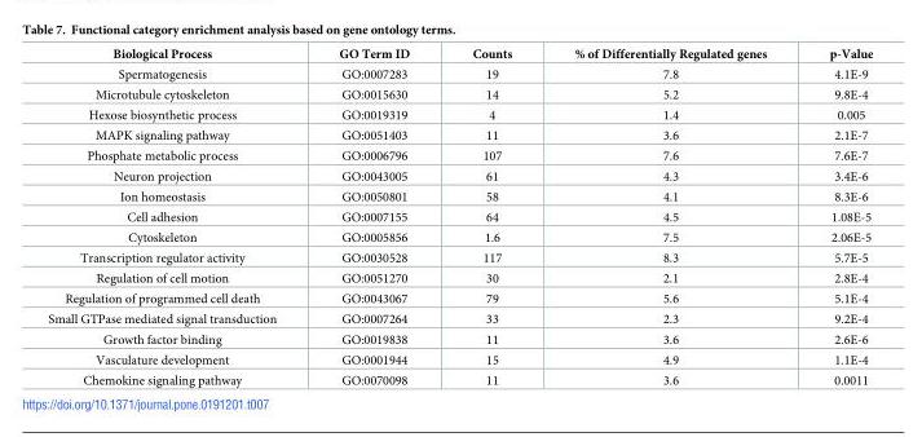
<table><thead><tr><td>Biological Process</td><td>GO Term ID</td><td>Counts</td><td>% of Differentially Regulated genes</td><td>p-Value</td></tr></thead><tbody><tr><td>Spermatogenesis</td><td>GO:0007283</td><td>19</td><td>7.8</td><td>4.1E-9</td></tr><tr><td>Microtubule cytoskeleton</td><td>GO:0015630</td><td>14</td><td>5.2</td><td>9.8E-4</td></tr><tr><td>Hexose biosynthetic process</td><td>GO:0019319</td><td>4</td><td>1.4</td><td>0.005</td></tr><tr><td>MAPK signaling pathway</td><td>GO:0051403</td><td>11</td><td>3.6</td><td>2.1E-7</td></tr><tr><td>Phosphate metabolic process</td><td>GO:0006796</td><td>107</td><td>7.6</td><td>7.6E-7</td></tr><tr><td>Neuron projection</td><td>GO:0043005</td><td>61</td><td>4.3</td><td>3.4E-6</td></tr><tr><td>Ion homeostasis</td><td>GO:0050801</td><td>58</td><td>4.1</td><td>8.3E-6</td></tr><tr><td>Cell adhesion</td><td>GO:0007155</td><td>64</td><td>4.5</td><td>1.08E-5</td></tr><tr><td>Cytoskeleton</td><td>GO:0005856</td><td>1.6</td><td>7.5</td><td>2.06E-5</td></tr><tr><td>Transcription regulator activity</td><td>GO:0030528</td><td>117</td><td>8.3</td><td>5.7E-5</td></tr><tr><td>Regulation of cell motion</td><td>GO:0051270</td><td>30</td><td>2.1</td><td>2.8E-4</td></tr><tr><td>Regulation of programmed cell death</td><td>GO:0043067</td><td>79</td><td>5.6</td><td>5.1E-4</td></tr><tr><td>Small GTPase mediated signal transduction</td><td>GO:0007264</td><td>33</td><td>2.3</td><td>9.2E-4</td></tr><tr><td>Growth factor binding</td><td>GO:0019838</td><td>11</td><td>3.6</td><td>2.6E-6</td></tr><tr><td>Vasculature development</td><td>GO:0001944</td><td>15</td><td>4.9</td><td>1.1E-4</td></tr><tr><td>Chemokine signaling pathway</td><td>GO:0070098</td><td>11</td><td>3.6</td><td>0.0011</td></tr></tbody></table>